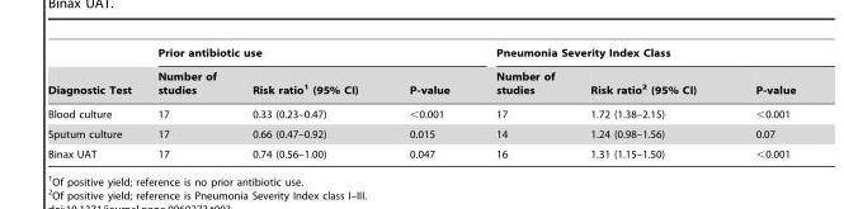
<table><thead><tr><td rowspan="2">Diagnostic Test</td><td colspan="3">Prior antibiotic use</td><td colspan="3">Pneumonia Severity Index Class</td></tr><tr><td>Number of studies</td><td>Risk ratio<sup>1</sup> (95% CI)</td><td>P-value</td><td>Number of studies</td><td>Risk ratio<sup>2</sup> (95% CI)</td><td>P-value</td></tr></thead><tbody><tr><td>Blood culture</td><td>17</td><td>0.33 (0.23–0.47)</td><td>&lt;0.001</td><td>17</td><td>1.72 (1.38–2.15)</td><td>&lt;0.001</td></tr><tr><td>Sputum culture</td><td>17</td><td>0.66 (0.47–0.92)</td><td>0.015</td><td>14</td><td>1.24 (0.98–1.56)</td><td>0.07</td></tr><tr><td>Binax UAT</td><td>17</td><td>0.74 (0.56–1.00)</td><td>0.047</td><td>16</td><td>1.31 (1.15–1.50)</td><td>&lt;0.001</td></tr></tbody></table>